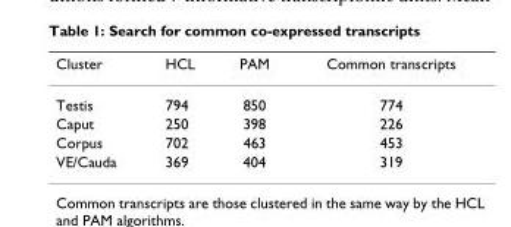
<table><thead><tr><td>Cluster</td><td>HCL</td><td>PAM</td><td>Common transcripts</td></tr></thead><tbody><tr><td>Testis</td><td>794</td><td>850</td><td>774</td></tr><tr><td>Caput</td><td>250</td><td>398</td><td>226</td></tr><tr><td>Corpus</td><td>702</td><td>463</td><td>453</td></tr><tr><td>VE/Cauda</td><td>369</td><td>404</td><td>319</td></tr></tbody></table>